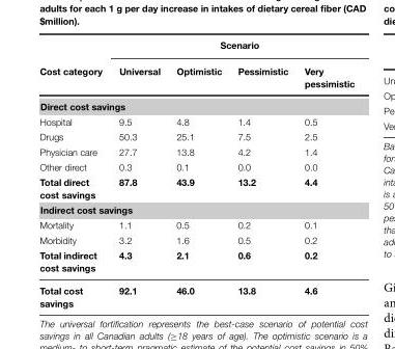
<table><thead><tr><td rowspan="2">Cost category</td><td colspan="4">Scenario</td></tr><tr><td>Universal</td><td>Optimistic</td><td>Pessimistic</td><td>Very pessimistic</td></tr></thead><tbody><tr><td colspan="5">Direct cost savings</td></tr><tr><td>Hospital</td><td>9.5</td><td>4.8</td><td>1.4</td><td>0.5</td></tr><tr><td>Drugs</td><td>50.3</td><td>25.1</td><td>7.5</td><td>2.5</td></tr><tr><td>Physician care</td><td>27.7</td><td>13.8</td><td>4.2</td><td>1.4</td></tr><tr><td>Other direct</td><td>0.3</td><td>0.1</td><td>0.0</td><td>0.0</td></tr><tr><td>Total direct cost savings</td><td>87.8</td><td>43.9</td><td>13.2</td><td>4.4</td></tr><tr><td colspan="5">Indirect cost savings</td></tr><tr><td>Mortality</td><td>1.1</td><td>0.5</td><td>0.2</td><td>0.1</td></tr><tr><td>Morbidity</td><td>3.2</td><td>1.6</td><td>0.5</td><td>0.2</td></tr><tr><td>Total indirect cost savings</td><td>4.3</td><td>2.1</td><td>0.6</td><td>0.2</td></tr><tr><td>Total cost savings</td><td>92.1</td><td>46.0</td><td>13.8</td><td>4.6</td></tr></tbody></table>